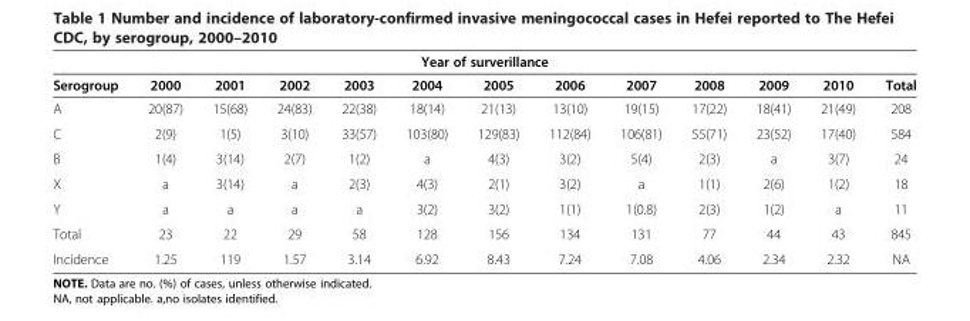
<table><thead><tr><td colspan="13">Year of surverillance</td></tr><tr><td>Serogroup</td><td>2000</td><td>2001</td><td>2002</td><td>2003</td><td>2004</td><td>2005</td><td>2006</td><td>2007</td><td>2008</td><td>2009</td><td>2010</td><td>Total</td></tr></thead><tbody><tr><td>A</td><td>20(87)</td><td>15(68)</td><td>24(83)</td><td>22(38)</td><td>18(14)</td><td>21(13)</td><td>13(10)</td><td>19(15)</td><td>17(22)</td><td>18(41)</td><td>21(49)</td><td>208</td></tr><tr><td>C</td><td>2(9)</td><td>1(5)</td><td>3(10)</td><td>33(57)</td><td>103(80)</td><td>129(83)</td><td>112(84)</td><td>106(81)</td><td>55(71)</td><td>23(52)</td><td>17(40)</td><td>584</td></tr><tr><td>B</td><td>1(4)</td><td>3(14)</td><td>2(7)</td><td>1(2)</td><td>a</td><td>4(3)</td><td>3(2)</td><td>5(4)</td><td>2(3)</td><td>a</td><td>3(7)</td><td>24</td></tr><tr><td>X</td><td>a</td><td>3(14)</td><td>a</td><td>2(3)</td><td>4(3)</td><td>2(1)</td><td>3(2)</td><td>a</td><td>1(1)</td><td>2(6)</td><td>1(2)</td><td>18</td></tr><tr><td>Y</td><td>a</td><td>a</td><td>a</td><td>a</td><td>3(2)</td><td>3(2)</td><td>1(1)</td><td>1(0.8)</td><td>2(3)</td><td>1(2)</td><td>a</td><td>11</td></tr><tr><td>Total</td><td>23</td><td>22</td><td>29</td><td>58</td><td>128</td><td>156</td><td>134</td><td>131</td><td>77</td><td>44</td><td>43</td><td>845</td></tr><tr><td>Incidence</td><td>1.25</td><td>119</td><td>1.57</td><td>3.14</td><td>6.92</td><td>8.43</td><td>7.24</td><td>7.08</td><td>4.06</td><td>2.34</td><td>2.32</td><td>NA</td></tr></tbody></table>